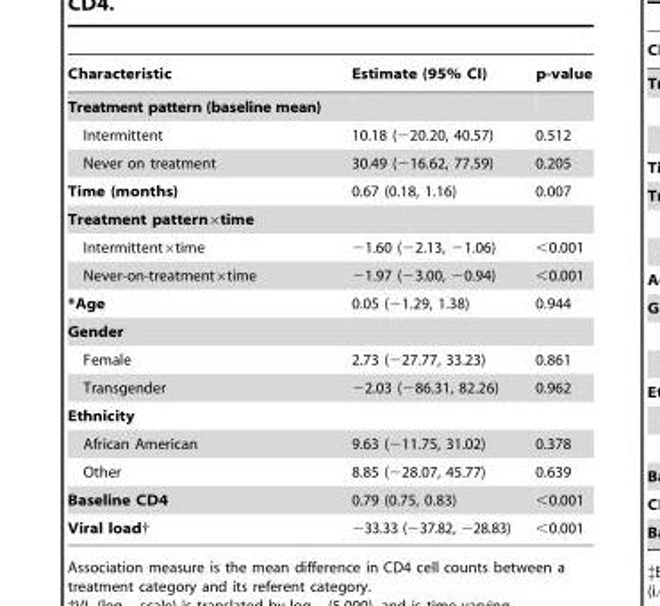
<table><thead><tr><td>Characteristic</td><td>Estimate (95% CI)</td><td>p-value</td></tr></thead><tbody><tr><td colspan="3">Treatment pattern (baseline mean)</td></tr><tr><td>Intermittent</td><td>10.18 (−20.20, 40.57)</td><td>0.512</td></tr><tr><td>Never on treatment</td><td>30.49 (−16.62, 77.59)</td><td>0.205</td></tr><tr><td>Time (months)</td><td>0.67 (0.18, 1.16)</td><td>0.007</td></tr><tr><td colspan="3">Treatment pattern×time</td></tr><tr><td>Intermittent×time</td><td>−1.60 (−2.13, −1.06)</td><td>&lt;0.001</td></tr><tr><td>Never-on-treatment×time</td><td>−1.97 (−3.00, −0.94)</td><td>&lt;0.001</td></tr><tr><td>*Age</td><td>0.05 (−1.29, 1.38)</td><td>0.944</td></tr><tr><td colspan="3">Gender</td></tr><tr><td>Female</td><td>2.73 (−27.77, 33.23)</td><td>0.861</td></tr><tr><td>Transgender</td><td>−2.03 (−86.31, 82.26)</td><td>0.962</td></tr><tr><td colspan="3">Ethnicity</td></tr><tr><td>African American</td><td>9.63 (−11.75, 31.02)</td><td>0.378</td></tr><tr><td>Other</td><td>8.85 (−28.07, 45.77)</td><td>0.639</td></tr><tr><td>Baseline CD4</td><td>0.79 (0.75, 0.83)</td><td>&lt;0.001</td></tr><tr><td>Viral load†</td><td>−33.33 (−37.82, −28.83)</td><td>&lt;0.001</td></tr></tbody></table>